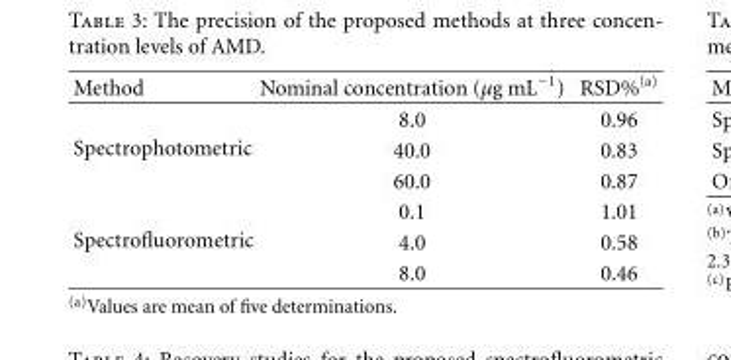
<table><thead><tr><td>Method</td><td>Nominal concentration (μg mL<sup>−1</sup>)</td><td>RSD%<sup>(a)</sup></td></tr></thead><tbody><tr><td rowspan="3">Spectrophotometric</td><td>8.0</td><td>0.96</td></tr><tr><td>40.0</td><td>0.83</td></tr><tr><td>60.0</td><td>0.87</td></tr><tr><td rowspan="3">Spectrofluorometric</td><td>0.1</td><td>1.01</td></tr><tr><td>4.0</td><td>0.58</td></tr><tr><td>8.0</td><td>0.46</td></tr></tbody></table>